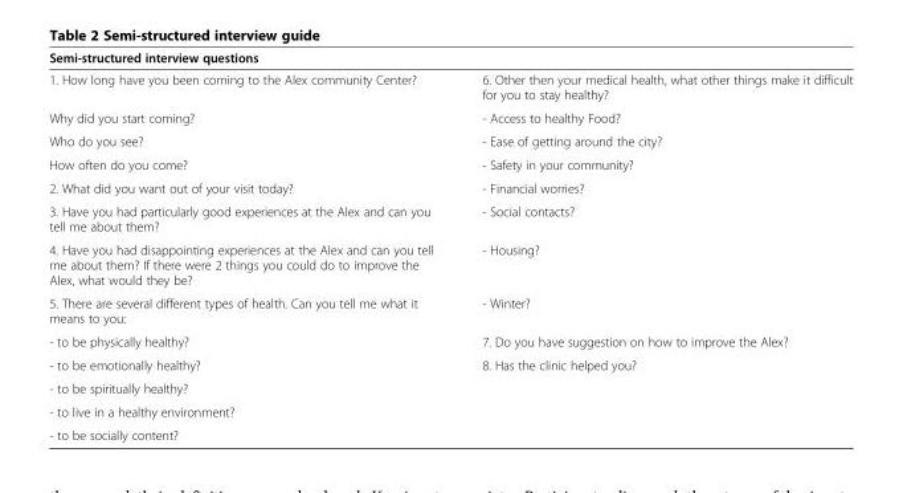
<table><thead><tr><td colspan="2">Semi-structured interview questions</td></tr><tr><td>1. How long have you been coming to the Alex community Center?</td><td>6. Other then your medical health, what other things make it difficult for you to stay healthy?</td></tr></thead><tbody><tr><td>Why did you start coming?</td><td>- Access to healthy Food?</td></tr><tr><td>Who do you see?</td><td>- Ease of getting around the city?</td></tr><tr><td>How often do you come?</td><td>- Safety in your community?</td></tr><tr><td>2. What did you want out of your visit today?</td><td>- Financial worries?</td></tr><tr><td>3. Have you had particularly good experiences at the Alex and can you tell me about them?</td><td>- Social contacts?</td></tr><tr><td>4. Have you had disappointing experiences at the Alex and can you tell me about them? If there were 2 things you could do to improve the Alex, what would they be?</td><td>- Housing?</td></tr><tr><td>5. There are several different types of health. Can you tell me what it means to you:</td><td>- Winter?</td></tr><tr><td>- to be physically healthy?</td><td>7. Do you have suggestion on how to improve the Alex?</td></tr><tr><td>- to be emotionally healthy?</td><td>8. Has the clinic helped you?</td></tr><tr><td colspan="2">- to be spiritually healthy?</td></tr><tr><td colspan="2">- to live in a healthy environment?</td></tr><tr><td>- to be socially content?</td><td></td></tr></tbody></table>